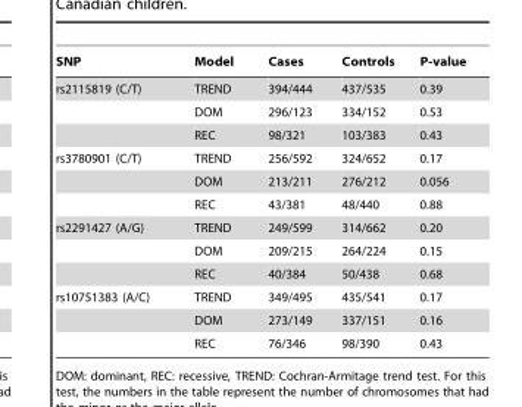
<table><thead><tr><td>SNP</td><td>Model</td><td>Cases</td><td>Controls</td><td>P-value</td></tr></thead><tbody><tr><td rowspan="3">rs2115819 (C/T)</td><td>TREND</td><td>394/444</td><td>437/535</td><td>0.39</td></tr><tr><td>DOM</td><td>296/123</td><td>334/152</td><td>0.53</td></tr><tr><td>REC</td><td>98/321</td><td>103/383</td><td>0.43</td></tr><tr><td rowspan="3">rs3780901 (C/T)</td><td>TREND</td><td>256/592</td><td>324/652</td><td>0.17</td></tr><tr><td>DOM</td><td>213/211</td><td>276/212</td><td>0.056</td></tr><tr><td>REC</td><td>43/381</td><td>48/440</td><td>0.88</td></tr><tr><td rowspan="3">rs2291427 (A/G)</td><td>TREND</td><td>249/599</td><td>314/662</td><td>0.20</td></tr><tr><td>DOM</td><td>209/215</td><td>264/224</td><td>0.15</td></tr><tr><td>REC</td><td>40/384</td><td>50/438</td><td>0.68</td></tr><tr><td rowspan="3">rs10751383 (A/C)</td><td>TREND</td><td>349/495</td><td>435/541</td><td>0.17</td></tr><tr><td>DOM</td><td>273/149</td><td>337/151</td><td>0.16</td></tr><tr><td>REC</td><td>76/346</td><td>98/390</td><td>0.43</td></tr></tbody></table>